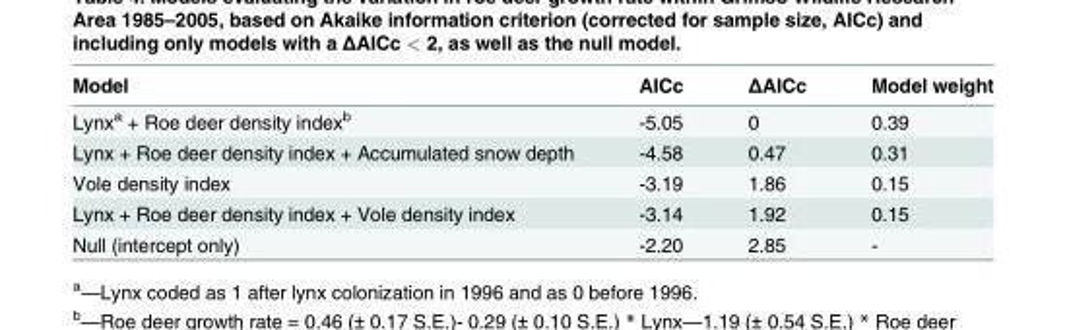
<table><thead><tr><td>Model</td><td>AICc</td><td>ΔAICc</td><td>Model weight</td></tr></thead><tbody><tr><td>Lynx<sup>a</sup> + Roe deer density index<sup>b</sup></td><td>-5.05</td><td>0</td><td>0.39</td></tr><tr><td>Lynx + Roe deer density index + Accumulated snow depth</td><td>-4.58</td><td>0.47</td><td>0.31</td></tr><tr><td>Vole density index</td><td>-3.19</td><td>1.86</td><td>0.15</td></tr><tr><td>Lynx + Roe deer density index + Vole density index</td><td>-3.14</td><td>1.92</td><td>0.15</td></tr><tr><td>Null (intercept only)</td><td>-2.20</td><td>2.85</td><td>-</td></tr></tbody></table>